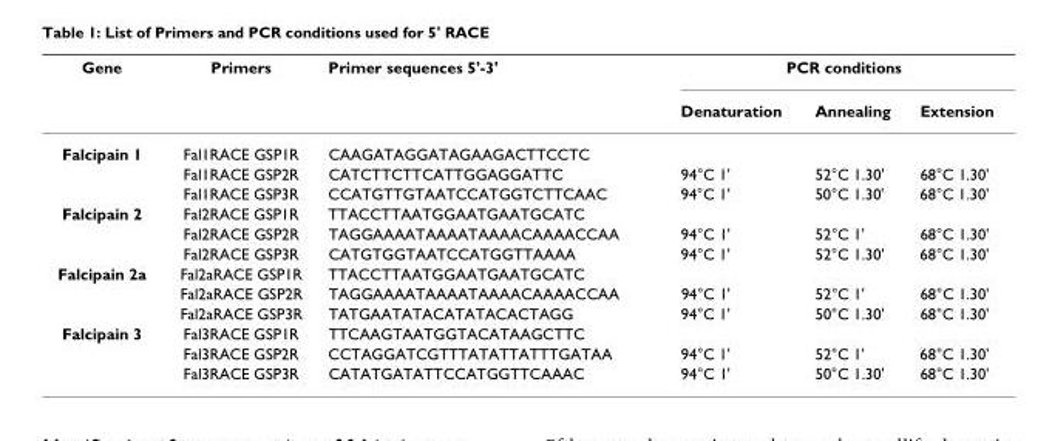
<table><thead><tr><td rowspan="2">Gene</td><td rowspan="2">Primers</td><td rowspan="2">Primer sequences 5&#x27;-3&#x27;</td><td colspan="3">PCR conditions</td></tr><tr><td>Denaturation</td><td>Annealing</td><td>Extension</td></tr></thead><tbody><tr><td rowspan="3">Falcipain 1</td><td>Fal1RACE GSP1R</td><td>CAAGATAGGATAGAAGACTTCCTC</td><td></td><td></td><td></td></tr><tr><td>Fal1RACE GSP2R</td><td>CATCTTCTTCATTGGAGGATTC</td><td>94°C 1&#x27;</td><td>52°C 1.30&#x27;</td><td>68°C 1.30&#x27;</td></tr><tr><td>Fal1RACE GSP3R</td><td>CCATGTTGTAATCCATGGTCTTCAAC</td><td>94°C 1&#x27;</td><td>50°C 1.30&#x27;</td><td>68°C 1.30&#x27;</td></tr><tr><td rowspan="3">Falcipain 2</td><td>Fal2RACE GSP1R</td><td>TTACCTTAATGGAATGAATGCATC</td><td></td><td></td><td></td></tr><tr><td>Fal2RACE GSP2R</td><td>TAGGAAAATAAAATAAAACAAAACCAA</td><td>94°C 1&#x27;</td><td>52°C 1&#x27;</td><td>68°C 1.30&#x27;</td></tr><tr><td>Fal2RACE GSP3R</td><td>CATGTGGTAATCCATGGTTAAAA</td><td>94°C 1&#x27;</td><td>52°C 1.30&#x27;</td><td>68°C 1.30&#x27;</td></tr><tr><td rowspan="3">Falcipain 2a</td><td>Fal2aRACE GSP1R</td><td>TTACCTTAATGGAATGAATGCATC</td><td></td><td></td><td></td></tr><tr><td>Fal2aRACE GSP2R</td><td>TAGGAAAATAAAATAAAACAAAACCAA</td><td>94°C 1&#x27;</td><td>52°C 1&#x27;</td><td>68°C 1.30&#x27;</td></tr><tr><td>Fal2aRACE GSP3R</td><td>TATGAATATACATATACACTAGG</td><td>94°C 1&#x27;</td><td>50°C 1.30&#x27;</td><td>68°C 1.30&#x27;</td></tr><tr><td rowspan="3">Falcipain 3</td><td>Fal3RACE GSP1R</td><td>TTCAAGTAATGGTACATAAGCTTC</td><td></td><td></td><td></td></tr><tr><td>Fal3RACE GSP2R</td><td>CCTAGGATCGTTTATATTATTTGATAA</td><td>94°C 1&#x27;</td><td>52°C 1&#x27;</td><td>68°C 1.30&#x27;</td></tr><tr><td>Fal3RACE GSP3R</td><td>CATATGATATTCCATGGTTCAAAC</td><td>94°C 1&#x27;</td><td>50°C 1.30&#x27;</td><td>68°C 1.30&#x27;</td></tr></tbody></table>